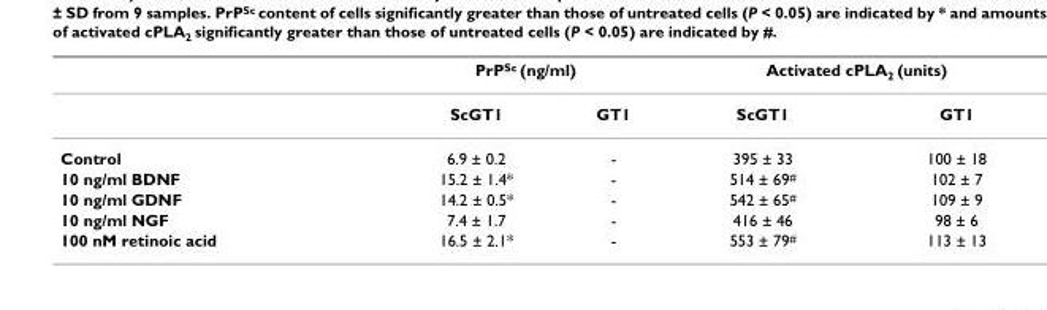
<table><thead><tr><td rowspan="2"></td><td colspan="2">PrP<sup>Sc</sup> (ng/ml)</td><td colspan="2">Activated cPLA<sub>2</sub> (units)</td></tr><tr><td>ScGT1</td><td>GT1</td><td>ScGT1</td><td>GT1</td></tr></thead><tbody><tr><td>Control</td><td>6.9 ± 0.2</td><td>-</td><td>395 ± 33</td><td>100 ± 18</td></tr><tr><td>10 ng/ml BDNF</td><td>15.2 ± 1.4*</td><td>-</td><td>514 ± 69<sup>#</sup></td><td>102 ± 7</td></tr><tr><td>10 ng/ml GDNF</td><td>14.2 ± 0.5*</td><td>-</td><td>542 ± 65<sup>#</sup></td><td>109 ± 9</td></tr><tr><td>10 ng/ml NGF</td><td>7.4 ± 1.7</td><td>-</td><td>416 ± 46</td><td>98 ± 6</td></tr><tr><td>100 nM retinoic acid</td><td>16.5 ± 2.1*</td><td>-</td><td>553 ± 79<sup>#</sup></td><td>113 ± 13</td></tr></tbody></table>